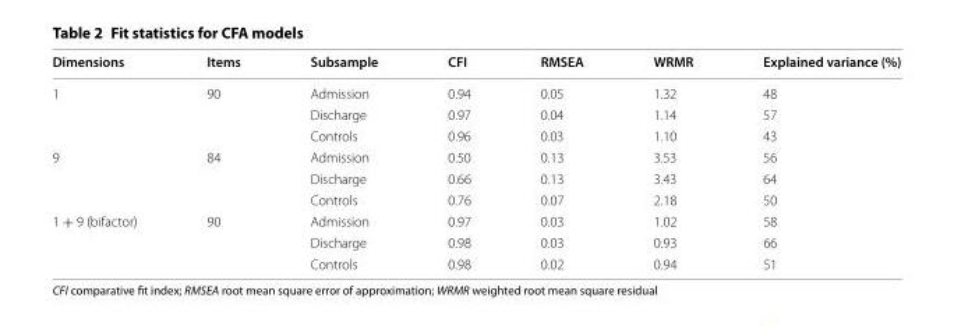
<table><thead><tr><td>Dimensions</td><td>Items</td><td>Subsample</td><td>CFI</td><td>RMSEA</td><td>WRMR</td><td>Explained variance (%)</td></tr></thead><tbody><tr><td rowspan="3">1</td><td rowspan="3">90</td><td>Admission</td><td>0.94</td><td>0.05</td><td>1.32</td><td>48</td></tr><tr><td>Discharge</td><td>0.97</td><td>0.04</td><td>1.14</td><td>57</td></tr><tr><td>Controls</td><td>0.96</td><td>0.03</td><td>1.10</td><td>43</td></tr><tr><td rowspan="3">9</td><td rowspan="3">84</td><td>Admission</td><td>0.50</td><td>0.13</td><td>3.53</td><td>56</td></tr><tr><td>Discharge</td><td>0.66</td><td>0.13</td><td>3.43</td><td>64</td></tr><tr><td>Controls</td><td>0.76</td><td>0.07</td><td>2.18</td><td>50</td></tr><tr><td rowspan="3">1 + 9 (bifactor)</td><td rowspan="3">90</td><td>Admission</td><td>0.97</td><td>0.03</td><td>1.02</td><td>58</td></tr><tr><td>Discharge</td><td>0.98</td><td>0.03</td><td>0.93</td><td>66</td></tr><tr><td>Controls</td><td>0.98</td><td>0.02</td><td>0.94</td><td>51</td></tr></tbody></table>